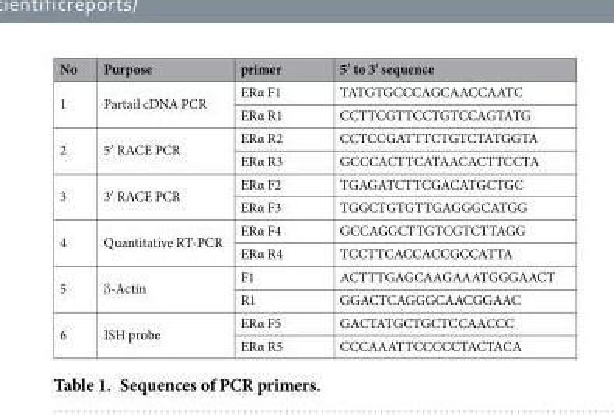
<table><thead><tr><td>No</td><td>Purpose</td><td>primer</td><td>5′ to 3′ sequence</td></tr></thead><tbody><tr><td rowspan="2">1</td><td rowspan="2">Partail cDNA PCR</td><td>ERα F1</td><td>TATGTGCCCAGCAACCAATC</td></tr><tr><td>ERα R1</td><td>CCTTCGTTCCTGTCCAGTATG</td></tr><tr><td rowspan="2">2</td><td rowspan="2">5′ RACE PCR</td><td>ERα R2</td><td>CCTCCGATTTCTGTCTATGGTA</td></tr><tr><td>ERα R3</td><td>GCCCACTTCATAACACTTCCTA</td></tr><tr><td rowspan="2">3</td><td rowspan="2">3′ RACE PCR</td><td>ERα F2</td><td>TGAGATCTTCGACATGCTGC</td></tr><tr><td>ERα F3</td><td>TGGCTGTGTTGAGGGCATGG</td></tr><tr><td rowspan="2">4</td><td rowspan="2">Quantitative RT-PCR</td><td>ERα F4</td><td>GCCAGGCTTGTCGTCTTAGG</td></tr><tr><td>ERα R4</td><td>TCCTTCACCACCGCCATTA</td></tr><tr><td rowspan="2">5</td><td rowspan="2">β-Actin</td><td>F1</td><td>ACTTTGAGCAAGAAATGGGAACT</td></tr><tr><td>R1</td><td>GGACTCAGGGCAACGGAAC</td></tr><tr><td rowspan="2">6</td><td rowspan="2">ISH probe</td><td>ERα F5</td><td>GACTATGCTGCTCCAACCC</td></tr><tr><td>ERα R5</td><td>CCCAAATTCCCCCTACTACA</td></tr></tbody></table>